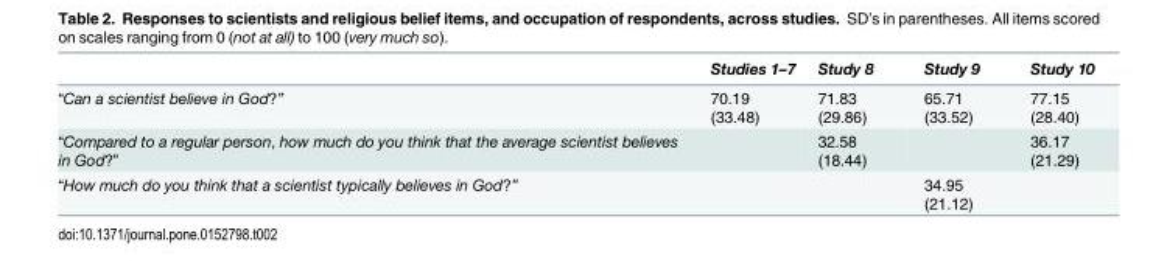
<table><thead><tr><td></td><td>Studies 1–7</td><td>Study 8</td><td>Study 9</td><td>Study 10</td></tr></thead><tbody><tr><td>“Can a scientist believe in God?”</td><td>70.19 (33.48)</td><td>71.83 (29.86)</td><td>65.71 (33.52)</td><td>77.15 (28.40)</td></tr><tr><td>“Compared to a regular person, how much do you think that the average scientist believes in God?”</td><td></td><td>32.58 (18.44)</td><td></td><td>36.17 (21.29)</td></tr><tr><td>“How much do you think that a scientist typically believes in God?”</td><td></td><td></td><td>34.95 (21.12)</td><td></td></tr></tbody></table>